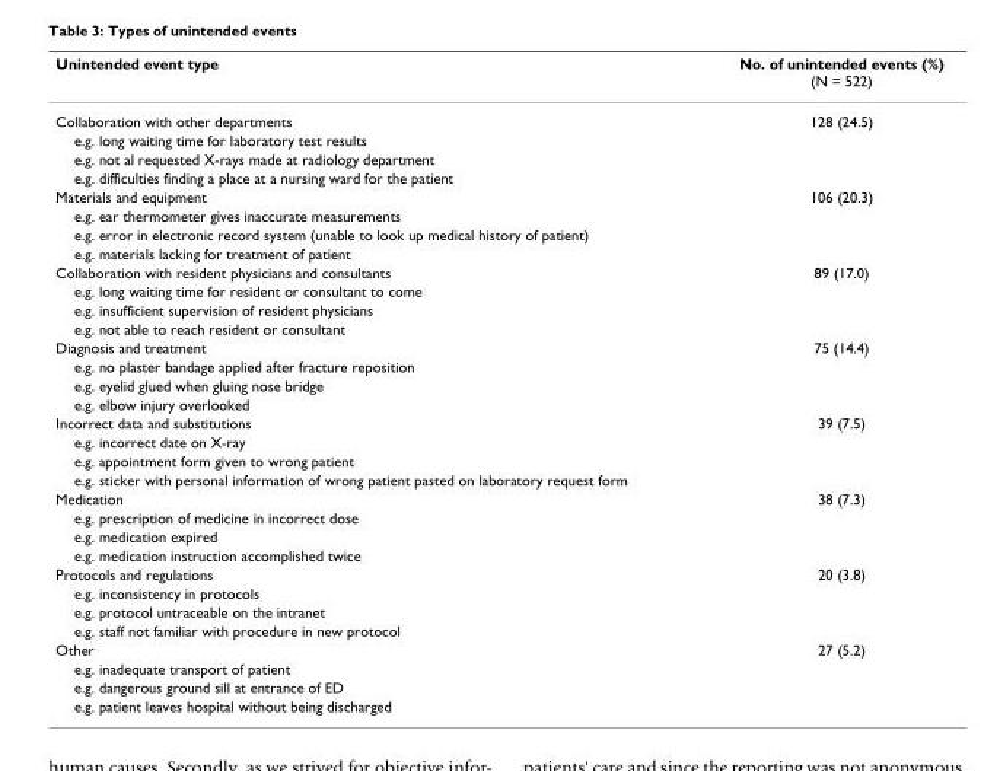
<table><thead><tr><td>Unintended event type</td><td>No. of unintended events (%) (N = 522)</td></tr></thead><tbody><tr><td>Collaboration with other departments</td><td>128 (24.5)</td></tr><tr><td colspan="2">e.g. long waiting time for laboratory test results</td></tr><tr><td colspan="2">e.g. not al requested X-rays made at radiology department</td></tr><tr><td colspan="2">e.g. difficulties finding a place at a nursing ward for the patient</td></tr><tr><td>Materials and equipment</td><td>106 (20.3)</td></tr><tr><td colspan="2">e.g. ear thermometer gives inaccurate measurements</td></tr><tr><td colspan="2">e.g. error in electronic record system (unable to look up medical history of patient)</td></tr><tr><td colspan="2">e.g. materials lacking for treatment of patient</td></tr><tr><td>Collaboration with resident physicians and consultants</td><td>89 (17.0)</td></tr><tr><td colspan="2">e.g. long waiting time for resident or consultant to come</td></tr><tr><td colspan="2">e.g. insufficient supervision of resident physicians</td></tr><tr><td colspan="2">e.g. not able to reach resident or consultant</td></tr><tr><td>Diagnosis and treatment</td><td>75 (14.4)</td></tr><tr><td colspan="2">e.g. no plaster bandage applied after fracture reposition</td></tr><tr><td colspan="2">e.g. eyelid glued when gluing nose bridge</td></tr><tr><td colspan="2">e.g. elbow injury overlooked</td></tr><tr><td>Incorrect data and substitutions</td><td>39 (7.5)</td></tr><tr><td colspan="2">e.g. incorrect date on X-ray</td></tr><tr><td colspan="2">e.g. appointment form given to wrong patient</td></tr><tr><td colspan="2">e.g. sticker with personal information of wrong patient pasted on laboratory request form</td></tr><tr><td>Medication</td><td>38 (7.3)</td></tr><tr><td colspan="2">e.g. prescription of medicine in incorrect dose</td></tr><tr><td colspan="2">e.g. medication expired</td></tr><tr><td colspan="2">e.g. medication instruction accomplished twice</td></tr><tr><td>Protocols and regulations</td><td>20 (3.8)</td></tr><tr><td colspan="2">e.g. inconsistency in protocols</td></tr><tr><td colspan="2">e.g. protocol untraceable on the intranet</td></tr><tr><td colspan="2">e.g. staff not familiar with procedure in new protocol</td></tr><tr><td>Other</td><td>27 (5.2)</td></tr><tr><td colspan="2">e.g. inadequate transport of patient</td></tr><tr><td colspan="2">e.g. dangerous ground sill at entrance of ED</td></tr><tr><td>e.g. patient leaves hospital without being discharged</td><td></td></tr></tbody></table>